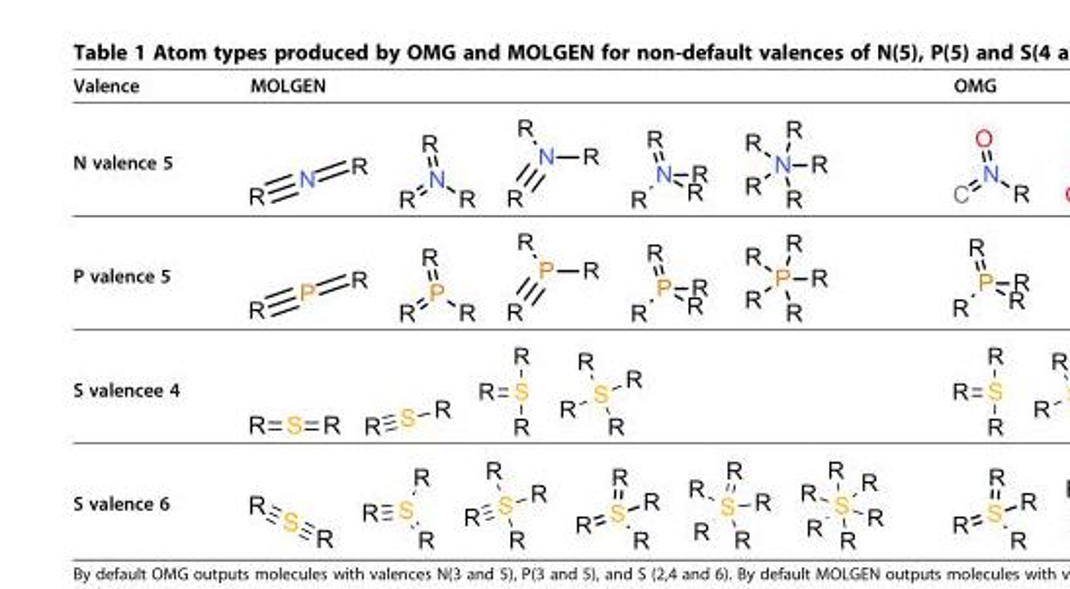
<table><thead><tr><td>Valence</td><td>MOLGEN</td><td>OMG</td></tr></thead><tbody><tr><td colspan="3">N valence 5</td></tr><tr><td colspan="3">P valence 5</td></tr><tr><td colspan="3">S valencee 4</td></tr><tr><td>S valence 6</td><td></td><td></td></tr></tbody></table>